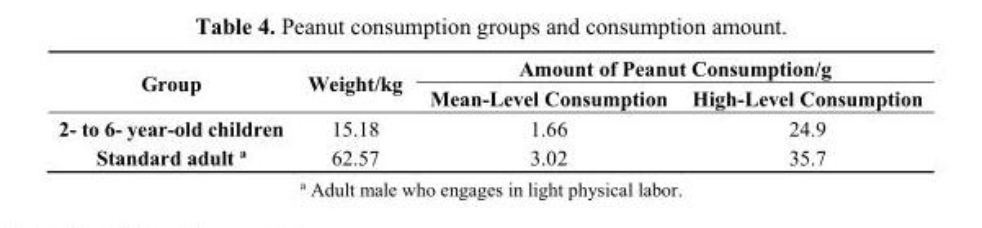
<table><thead><tr><td rowspan="2">Group</td><td rowspan="2">Weight/kg</td><td colspan="2">Amount of Peanut Consumption/g</td></tr><tr><td>Mean-Level Consumption</td><td>High-Level Consumption</td></tr></thead><tbody><tr><td>2- to 6- year-old children</td><td>15.18</td><td>1.66</td><td>24.9</td></tr><tr><td>Standard adult <sup>a</sup></td><td>62.57</td><td>3.02</td><td>35.7</td></tr></tbody></table>